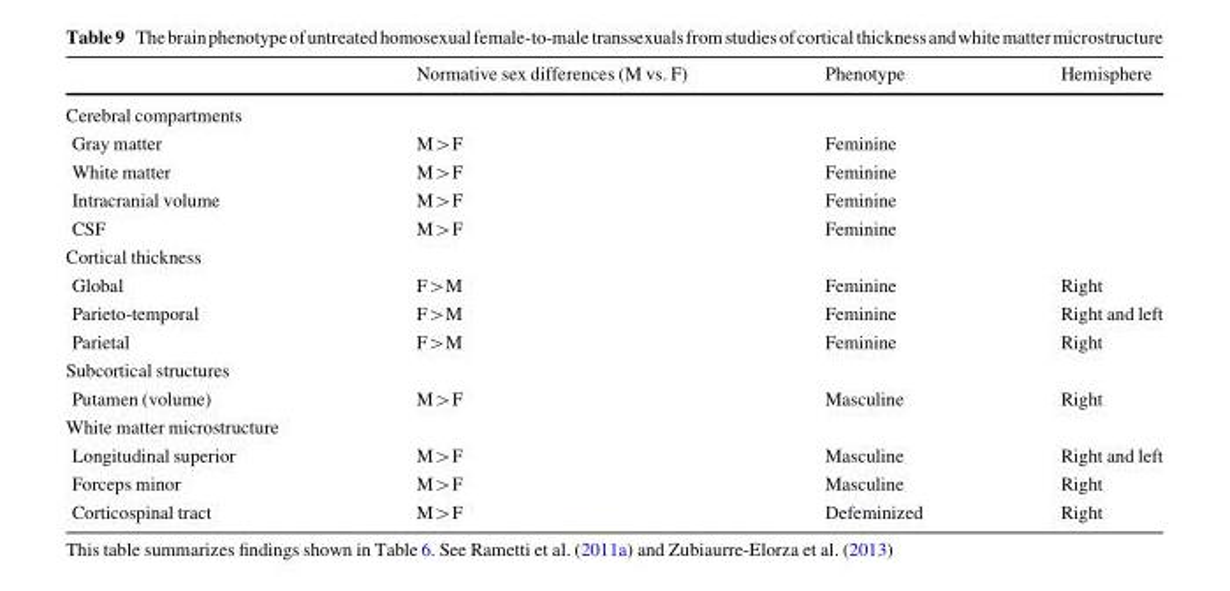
<table><thead><tr><td></td><td>Normative sex differences (M vs. F)</td><td>Phenotype</td><td>Hemisphere</td></tr></thead><tbody><tr><td colspan="4">Cerebral compartments</td></tr><tr><td>Gray matter</td><td>M&gt;F</td><td>Feminine</td><td></td></tr><tr><td>White matter</td><td>M&gt;F</td><td>Feminine</td><td></td></tr><tr><td>Intracranial volume</td><td>M&gt;F</td><td>Feminine</td><td></td></tr><tr><td>CSF</td><td>M&gt;F</td><td>Feminine</td><td></td></tr><tr><td colspan="4">Cortical thickness</td></tr><tr><td>Global</td><td>F&gt;M</td><td>Feminine</td><td>Right</td></tr><tr><td>Parieto-temporal</td><td>F&gt;M</td><td>Feminine</td><td>Right and left</td></tr><tr><td>Parietal</td><td>F&gt;M</td><td>Feminine</td><td>Right</td></tr><tr><td colspan="4">Subcortical structures</td></tr><tr><td>Putamen (volume)</td><td>M&gt;F</td><td>Masculine</td><td>Right</td></tr><tr><td colspan="4">White matter microstructure</td></tr><tr><td>Longitudinal superior</td><td>M&gt;F</td><td>Masculine</td><td>Right and left</td></tr><tr><td>Forceps minor</td><td>M&gt;F</td><td>Masculine</td><td>Right</td></tr><tr><td>Corticospinal tract</td><td>M&gt;F</td><td>Defeminized</td><td>Right</td></tr></tbody></table>